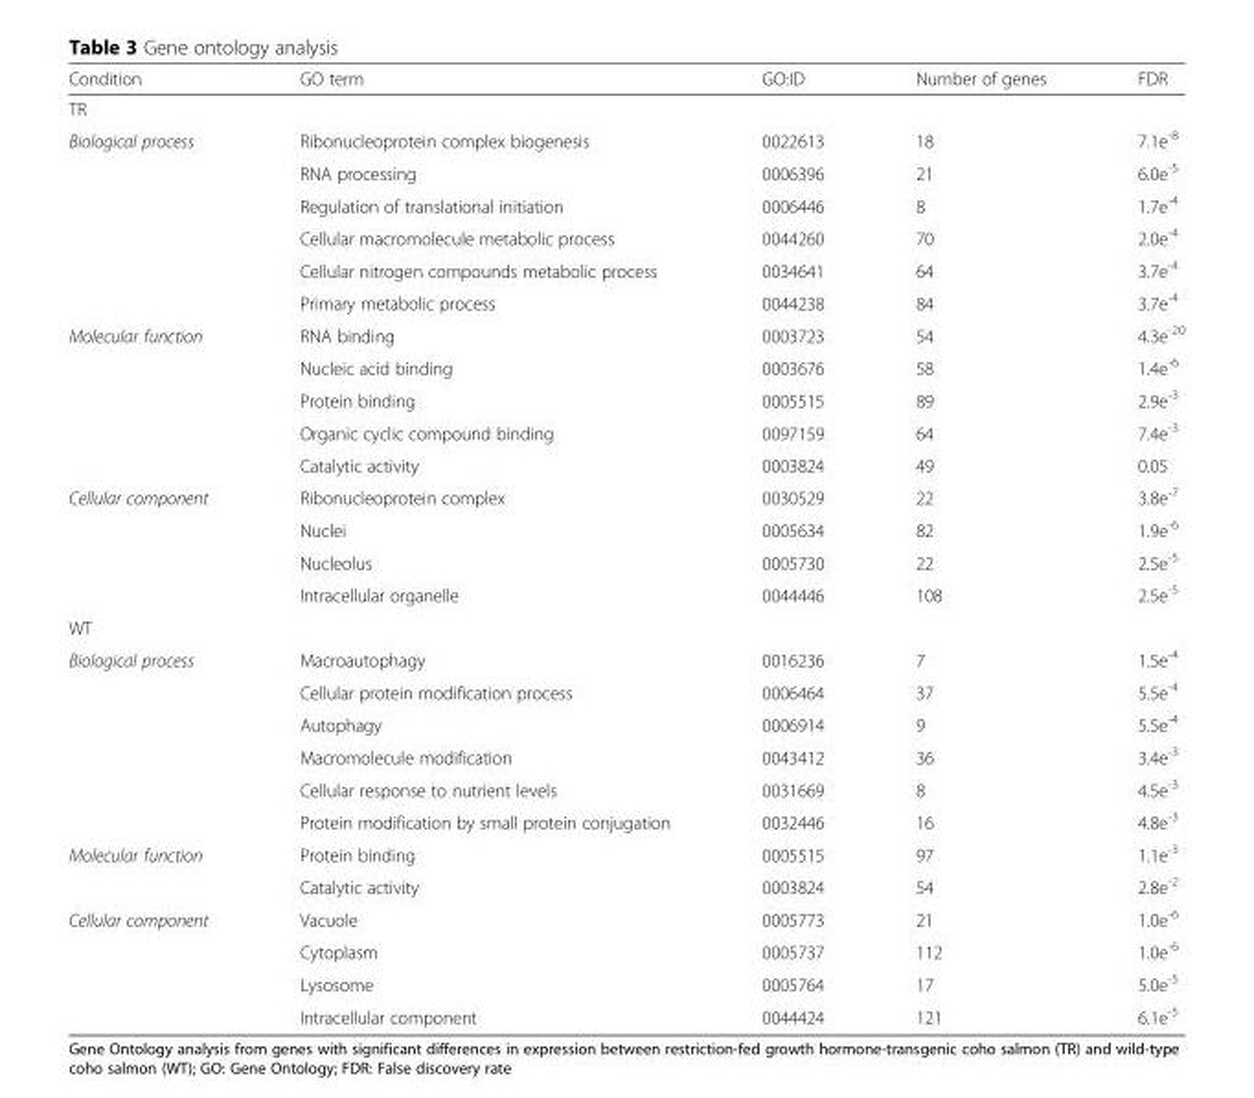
<table><thead><tr><td>Condition</td><td>GO term</td><td>GO:ID</td><td>Number of genes</td><td>FDR</td></tr></thead><tbody><tr><td colspan="5">TR</td></tr><tr><td rowspan="6">Biological process</td><td>Ribonucleoprotein complex biogenesis</td><td>0022613</td><td>18</td><td>7.1e<sup>-8</sup></td></tr><tr><td>RNA processing</td><td>0006396</td><td>21</td><td>6.0e<sup>-5</sup></td></tr><tr><td>Regulation of translational initiation</td><td>0006446</td><td>8</td><td>1.7e<sup>-4</sup></td></tr><tr><td>Cellular macromolecule metabolic process</td><td>0044260</td><td>70</td><td>2.0e<sup>-4</sup></td></tr><tr><td>Cellular nitrogen compounds metabolic process</td><td>0034641</td><td>64</td><td>3.7e<sup>-4</sup></td></tr><tr><td>Primary metabolic process</td><td>0044238</td><td>84</td><td>3.7e<sup>-4</sup></td></tr><tr><td rowspan="5">Molecular function</td><td>RNA binding</td><td>0003723</td><td>54</td><td>4.3e<sup>-20</sup></td></tr><tr><td>Nucleic acid binding</td><td>0003676</td><td>58</td><td>1.4e<sup>-6</sup></td></tr><tr><td>Protein binding</td><td>0005515</td><td>89</td><td>2.9e<sup>-3</sup></td></tr><tr><td>Organic cyclic compound binding</td><td>0097159</td><td>64</td><td>7.4e<sup>-3</sup></td></tr><tr><td>Catalytic activity</td><td>0003824</td><td>49</td><td>0.05</td></tr><tr><td rowspan="4">Cellular component</td><td>Ribonucleoprotein complex</td><td>0030529</td><td>22</td><td>3.8e<sup>-7</sup></td></tr><tr><td>Nuclei</td><td>0005634</td><td>82</td><td>1.9e<sup>-6</sup></td></tr><tr><td>Nucleolus</td><td>0005730</td><td>22</td><td>2.5e<sup>-5</sup></td></tr><tr><td>Intracellular organelle</td><td>0044446</td><td>108</td><td>2.5e<sup>-5</sup></td></tr><tr><td colspan="5">WT</td></tr><tr><td rowspan="6">Biological process</td><td>Macroautophagy</td><td>0016236</td><td>7</td><td>1.5e<sup>-4</sup></td></tr><tr><td>Cellular protein modification process</td><td>0006464</td><td>37</td><td>5.5e<sup>-4</sup></td></tr><tr><td>Autophagy</td><td>0006914</td><td>9</td><td>5.5e<sup>-4</sup></td></tr><tr><td>Macromolecule modification</td><td>0043412</td><td>36</td><td>3.4e<sup>-3</sup></td></tr><tr><td>Cellular response to nutrient levels</td><td>0031669</td><td>8</td><td>4.5e<sup>-3</sup></td></tr><tr><td>Protein modification by small protein conjugation</td><td>0032446</td><td>16</td><td>4.8e<sup>-3</sup></td></tr><tr><td rowspan="2">Molecular function</td><td>Protein binding</td><td>0005515</td><td>97</td><td>1.1e<sup>-3</sup></td></tr><tr><td>Catalytic activity</td><td>0003824</td><td>54</td><td>2.8e<sup>-2</sup></td></tr><tr><td rowspan="4">Cellular component</td><td>Vacuole</td><td>0005773</td><td>21</td><td>1.0e<sup>-6</sup></td></tr><tr><td>Cytoplasm</td><td>0005737</td><td>112</td><td>1.0e<sup>-6</sup></td></tr><tr><td>Lysosome</td><td>0005764</td><td>17</td><td>5.0e<sup>-5</sup></td></tr><tr><td>Intracellular component</td><td>0044424</td><td>121</td><td>6.1e<sup>-5</sup></td></tr></tbody></table>